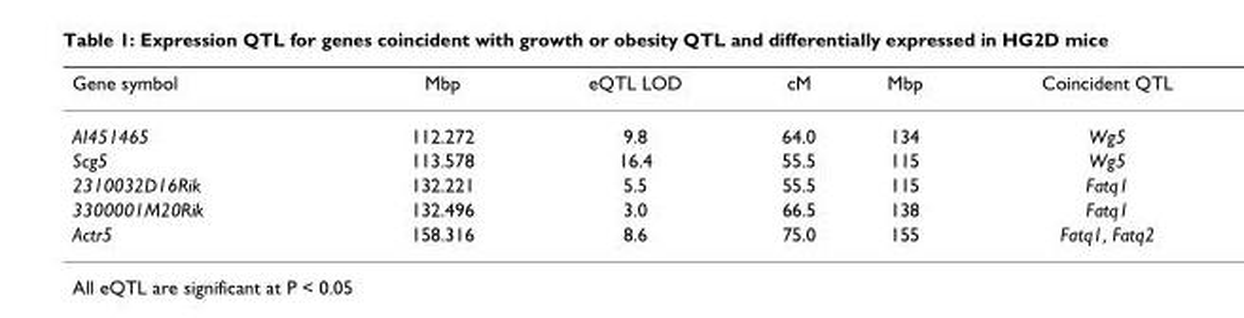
<table><thead><tr><td>Gene symbol</td><td>Mbp</td><td>eQTL LOD</td><td>cM</td><td>Mbp</td><td>Coincident QTL</td></tr></thead><tbody><tr><td>AI451465</td><td>112.272</td><td>9.8</td><td>64.0</td><td>134</td><td>Wg5</td></tr><tr><td>Scg5</td><td>113.578</td><td>16.4</td><td>55.5</td><td>115</td><td>Wg5</td></tr><tr><td>2310032D16Rik</td><td>132.221</td><td>5.5</td><td>55.5</td><td>115</td><td>Fatq1</td></tr><tr><td>3300001M20Rik</td><td>132.496</td><td>3.0</td><td>66.5</td><td>138</td><td>Fatq1</td></tr><tr><td>Actr5</td><td>158.316</td><td>8.6</td><td>75.0</td><td>155</td><td>Fatq1, Fatq2</td></tr></tbody></table>